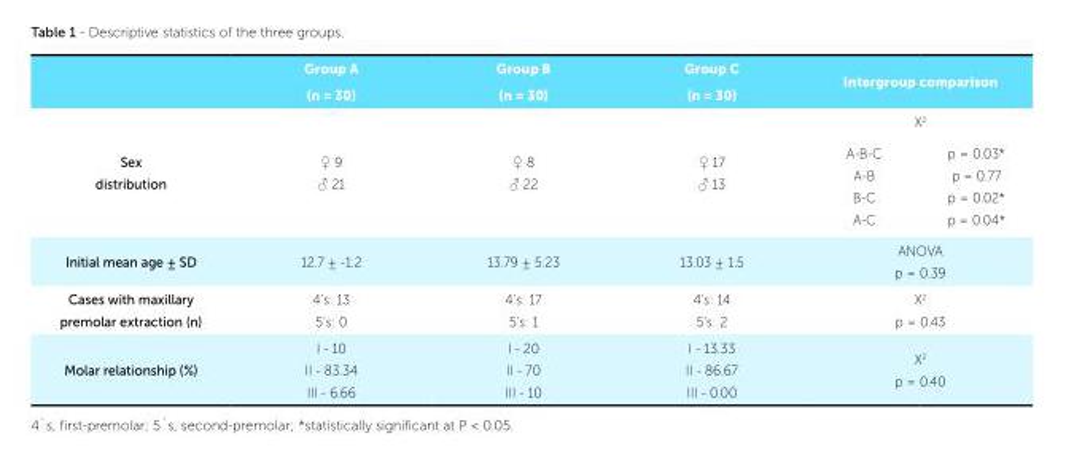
<table><thead><tr><td rowspan="4">Sex distribution</td><td rowspan="4">Group A (n = 30) ♀ 9 ♂ 21</td><td rowspan="4">Group B (n = 30) ♀ 8 ♂ 22</td><td rowspan="4">Group C (n = 30) ♀ 17 ♂ 13</td><td rowspan="3" colspan="2">Intergroup comparison X<sup>2</sup></td></tr><tr></tr><tr></tr><tr><td>A-B-C A-B B-C A-C</td><td>p = 0.03* p = 0.77 p = 0.02* p = 0.04*</td></tr></thead><tbody><tr><td>Initial mean age ± SD</td><td>12.7 ± -1.2</td><td>13.79 ± 5.23</td><td>13.03 ± 1.5</td><td colspan="2">ANOVA p = 0.39</td></tr><tr><td>Cases with maxillary premolar extraction (n)</td><td>4’s: 13 5’s: 0</td><td>4’s: 17 5’s: 1</td><td>4’s: 14 5’s: 2</td><td colspan="2">X<sup>2</sup> p = 0.43</td></tr><tr><td>Molar relationship (%)</td><td>I - 10 II - 83.34 III - 6.66</td><td>I - 20 II - 70 III - 10</td><td>I - 13.33 II - 86.67 III - 0.00</td><td colspan="2">X<sup>2</sup> p = 0.40</td></tr></tbody></table>